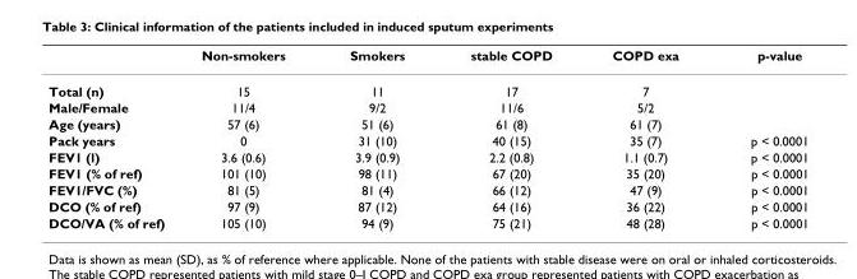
<table><thead><tr><td></td><td>Non-smokers</td><td>Smokers</td><td>stable COPD</td><td>COPD exa</td><td>p-value</td></tr></thead><tbody><tr><td>Total (n)</td><td>15</td><td>11</td><td>17</td><td>7</td><td></td></tr><tr><td>Male/Female</td><td>11/4</td><td>9/2</td><td>11/6</td><td>5/2</td><td></td></tr><tr><td>Age (years)</td><td>57 (6)</td><td>51 (6)</td><td>61 (8)</td><td>61 (7)</td><td></td></tr><tr><td>Pack years</td><td>0</td><td>31 (10)</td><td>40 (15)</td><td>35 (7)</td><td>p &lt; 0.0001</td></tr><tr><td>FEV1 (l)</td><td>3.6 (0.6)</td><td>3.9 (0.9)</td><td>2.2 (0.8)</td><td>1.1 (0.7)</td><td>p &lt; 0.0001</td></tr><tr><td>FEV1 (% of ref)</td><td>101 (10)</td><td>98 (11)</td><td>67 (20)</td><td>35 (20)</td><td>p &lt; 0.0001</td></tr><tr><td>FEV1/FVC (%)</td><td>81 (5)</td><td>81 (4)</td><td>66 (12)</td><td>47 (9)</td><td>p &lt; 0.0001</td></tr><tr><td>DCO (% of ref)</td><td>97 (9)</td><td>87 (12)</td><td>64 (16)</td><td>36 (22)</td><td>p &lt; 0.0001</td></tr><tr><td>DCO/VA (% of ref)</td><td>105 (10)</td><td>94 (9)</td><td>75 (21)</td><td>48 (28)</td><td>p &lt; 0.0001</td></tr></tbody></table>